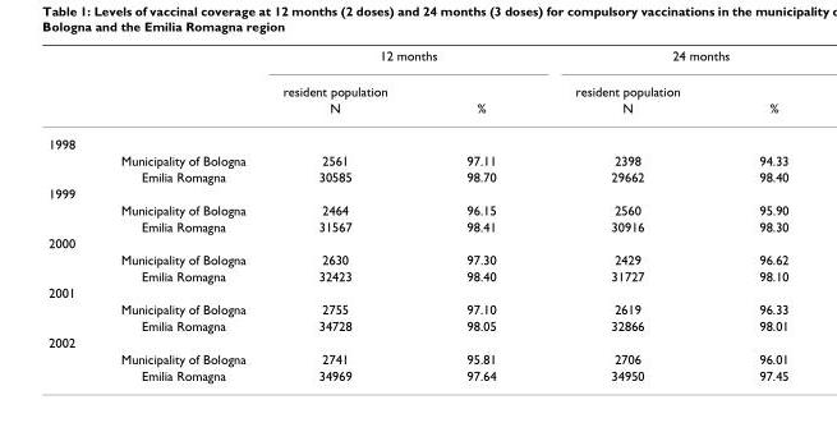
<table><thead><tr><td rowspan="3"></td><td rowspan="3"></td><td colspan="2">12 months</td><td colspan="2">24 months</td></tr><tr><td rowspan="2">resident population N</td><td rowspan="2">%</td><td rowspan="2">resident population N</td><td rowspan="2">%</td></tr><tr></tr></thead><tbody><tr><td colspan="6">1998</td></tr><tr><td></td><td>Municipality of Bologna</td><td>2561</td><td>97.11</td><td>2398</td><td>94.33</td></tr><tr><td></td><td>Emilia Romagna</td><td>30585</td><td>98.70</td><td>29662</td><td>98.40</td></tr><tr><td colspan="6">1999</td></tr><tr><td></td><td>Municipality of Bologna</td><td>2464</td><td>96.15</td><td>2560</td><td>95.90</td></tr><tr><td></td><td>Emilia Romagna</td><td>31567</td><td>98.41</td><td>30916</td><td>98.30</td></tr><tr><td colspan="6">2000</td></tr><tr><td></td><td>Municipality of Bologna</td><td>2630</td><td>97.30</td><td>2429</td><td>96.62</td></tr><tr><td></td><td>Emilia Romagna</td><td>32423</td><td>98.40</td><td>31727</td><td>98.10</td></tr><tr><td colspan="6">2001</td></tr><tr><td></td><td>Municipality of Bologna</td><td>2755</td><td>97.10</td><td>2619</td><td>96.33</td></tr><tr><td></td><td>Emilia Romagna</td><td>34728</td><td>98.05</td><td>32866</td><td>98.01</td></tr><tr><td colspan="6">2002</td></tr><tr><td></td><td>Municipality of Bologna</td><td>2741</td><td>95.81</td><td>2706</td><td>96.01</td></tr><tr><td></td><td>Emilia Romagna</td><td>34969</td><td>97.64</td><td>34950</td><td>97.45</td></tr></tbody></table>